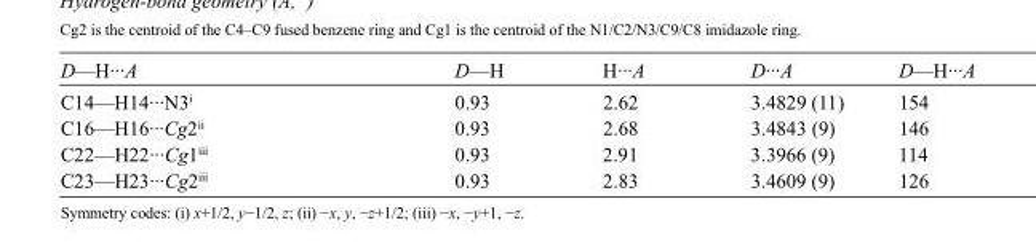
<table><tbody><tr><td>D—H···A</td><td>D—H</td><td>H···A</td><td>D···A</td><td>D—H···A</td></tr><tr><td>C14—H14···N3<sup>i</sup></td><td>0.93</td><td>2.62</td><td>3.4829 (11)</td><td>154</td></tr><tr><td>C16—H16···Cg2<sup>ii</sup></td><td>0.93</td><td>2.68</td><td>3.4843 (9)</td><td>146</td></tr><tr><td>C22—H22···Cg1<sup>iii</sup></td><td>0.93</td><td>2.91</td><td>3.3966 (9)</td><td>114</td></tr><tr><td>C23—H23···Cg2<sup>iii</sup></td><td>0.93</td><td>2.83</td><td>3.4609 (9)</td><td>126</td></tr></tbody></table>